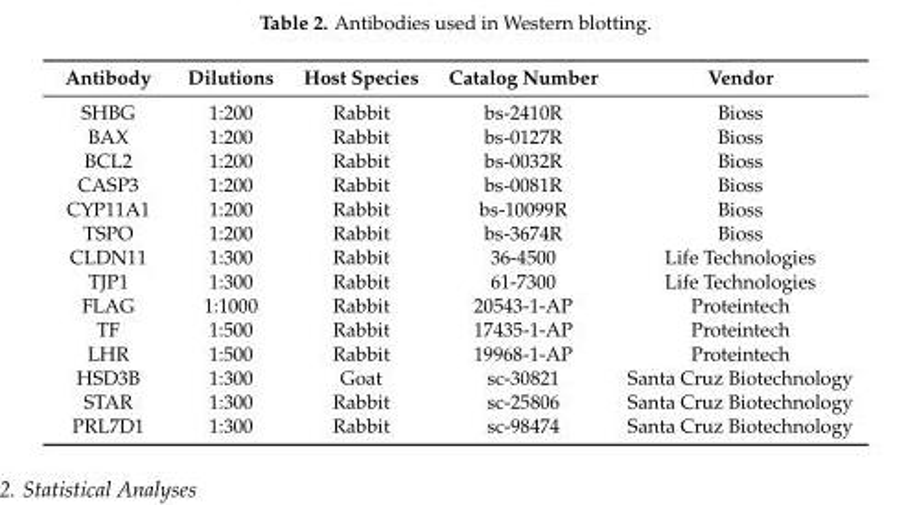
<table><thead><tr><td>Antibody</td><td>Dilutions</td><td>Host Species</td><td>Catalog Number</td><td>Vendor</td></tr></thead><tbody><tr><td>SHBG</td><td>1:200</td><td>Rabbit</td><td>bs-2410R</td><td>Bioss</td></tr><tr><td>BAX</td><td>1:200</td><td>Rabbit</td><td>bs-0127R</td><td>Bioss</td></tr><tr><td>BCL2</td><td>1:200</td><td>Rabbit</td><td>bs-0032R</td><td>Bioss</td></tr><tr><td>CASP3</td><td>1:200</td><td>Rabbit</td><td>bs-0081R</td><td>Bioss</td></tr><tr><td>CYP11A1</td><td>1:200</td><td>Rabbit</td><td>bs-10099R</td><td>Bioss</td></tr><tr><td>TSPO</td><td>1:200</td><td>Rabbit</td><td>bs-3674R</td><td>Bioss</td></tr><tr><td>CLDN11</td><td>1:300</td><td>Rabbit</td><td>36-4500</td><td>Life Technologies</td></tr><tr><td>TJP1</td><td>1:300</td><td>Rabbit</td><td>61-7300</td><td>Life Technologies</td></tr><tr><td>FLAG</td><td>1:1000</td><td>Rabbit</td><td>20543-1-AP</td><td>Proteintech</td></tr><tr><td>TF</td><td>1:500</td><td>Rabbit</td><td>17435-1-AP</td><td>Proteintech</td></tr><tr><td>LHR</td><td>1:500</td><td>Rabbit</td><td>19968-1-AP</td><td>Proteintech</td></tr><tr><td>HSD3B</td><td>1:300</td><td>Goat</td><td>sc-30821</td><td>Santa Cruz Biotechnology</td></tr><tr><td>STAR</td><td>1:300</td><td>Rabbit</td><td>sc-25806</td><td>Santa Cruz Biotechnology</td></tr><tr><td>PRL7D1</td><td>1:300</td><td>Rabbit</td><td>sc-98474</td><td>Santa Cruz Biotechnology</td></tr></tbody></table>